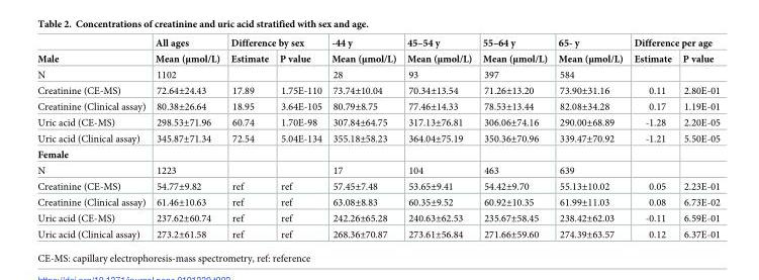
<table><thead><tr><td rowspan="2">Male</td><td rowspan="2">All ages Mean (μmol/L)</td><td colspan="2">Difference by sex</td><td rowspan="2">-44 y Mean (μmol/L)</td><td rowspan="2">45–54 y Mean (μmol/L)</td><td rowspan="2">55–64 y Mean (μmol/L)</td><td rowspan="2">65- y Mean (μmol/L)</td><td colspan="2">Difference per age</td></tr><tr><td>Estimate</td><td>P value</td><td>Estimate</td><td>P value</td></tr></thead><tbody><tr><td>N</td><td>1102</td><td></td><td></td><td>28</td><td>93</td><td>397</td><td>584</td><td></td><td></td></tr><tr><td>Creatinine (CE-MS)</td><td>72.64±24.43</td><td>17.89</td><td>1.75E-110</td><td>73.74±10.04</td><td>70.34±13.54</td><td>71.26±13.20</td><td>73.90±31.16</td><td>0.11</td><td>2.80E-01</td></tr><tr><td>Creatinine (Clinical assay)</td><td>80.38±26.64</td><td>18.95</td><td>3.64E-105</td><td>80.79±8.75</td><td>77.46±14.33</td><td>78.53±13.44</td><td>82.08±34.28</td><td>0.17</td><td>1.19E-01</td></tr><tr><td>Uric acid (CE-MS)</td><td>298.53±71.96</td><td>60.74</td><td>1.70E-98</td><td>307.84±64.75</td><td>317.13±76.81</td><td>306.06±74.16</td><td>290.00±68.89</td><td>-1.28</td><td>2.20E-05</td></tr><tr><td>Uric acid (Clinical assay)</td><td>345.87±71.34</td><td>72.54</td><td>5.04E-134</td><td>355.18±58.23</td><td>364.04±75.19</td><td>350.36±70.96</td><td>339.47±70.92</td><td>-1.21</td><td>5.50E-05</td></tr><tr><td colspan="10">Female</td></tr><tr><td>N</td><td>1223</td><td></td><td></td><td>17</td><td>104</td><td>463</td><td>639</td><td></td><td></td></tr><tr><td>Creatinine (CE-MS)</td><td>54.77±9.82</td><td>ref</td><td>ref</td><td>57.45±7.48</td><td>53.65±9.41</td><td>54.42±9.70</td><td>55.13±10.02</td><td>0.05</td><td>2.23E-01</td></tr><tr><td>Creatinine (Clinical assay)</td><td>61.46±10.63</td><td>ref</td><td>ref</td><td>63.08±8.83</td><td>60.35±9.52</td><td>60.92±10.35</td><td>61.99±11.03</td><td>0.08</td><td>6.73E-02</td></tr><tr><td>Uric acid (CE-MS)</td><td>237.62±60.74</td><td>ref</td><td>ref</td><td>242.26±65.28</td><td>240.63±62.53</td><td>235.67±58.45</td><td>238.42±62.03</td><td>-0.11</td><td>6.59E-01</td></tr><tr><td>Uric acid (Clinical assay)</td><td>273.2±61.58</td><td>ref</td><td>ref</td><td>268.36±70.87</td><td>273.61±56.84</td><td>271.66±59.60</td><td>274.39±63.57</td><td>0.12</td><td>6.37E-01</td></tr></tbody></table>